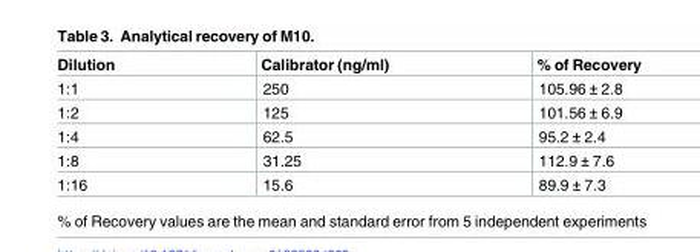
<table><thead><tr><td>Dilution</td><td>Calibrator (ng/ml)</td><td>% of Recovery</td></tr></thead><tbody><tr><td>1:1</td><td>250</td><td>105.96 ± 2.8</td></tr><tr><td>1:2</td><td>125</td><td>101.56 ± 6.9</td></tr><tr><td>1:4</td><td>62.5</td><td>95.2 ± 2.4</td></tr><tr><td>1:8</td><td>31.25</td><td>112.9 ± 7.6</td></tr><tr><td>1:16</td><td>15.6</td><td>89.9 ± 7.3</td></tr></tbody></table>